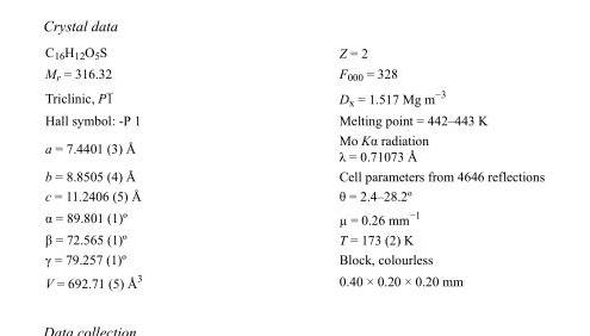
<table><tbody><tr><td>C<sub>16</sub>H<sub>12</sub>O<sub>5</sub>S</td><td>Z = 2</td></tr><tr><td>M<sub>r</sub> = 316.32</td><td>F<sub>000</sub> = 328</td></tr><tr><td>Triclinic, P1</td><td>D<sub>x</sub> = 1.517 Mg m<sup>−3</sup></td></tr><tr><td>Hall symbol: -P 1</td><td>Melting point = 442–443 K</td></tr><tr><td>a = 7.4401 (3) Å</td><td>Mo Kα radiation λ = 0.71073 Å</td></tr><tr><td>b = 8.8505 (4) Å</td><td>Cell parameters from 4646 reflections</td></tr><tr><td>c = 11.2406 (5) Å</td><td>θ = 2.4–28.2º</td></tr><tr><td>α = 89.801 (1)º</td><td>µ = 0.26 mm<sup>−1</sup></td></tr><tr><td>β = 72.565 (1)º</td><td>T = 173 (2) K</td></tr><tr><td>γ = 79.257 (1)º</td><td>Block, colourless</td></tr><tr><td>V = 692.71 (5) Å<sup>3</sup></td><td>0.40 × 0.20 × 0.20 mm</td></tr></tbody></table>